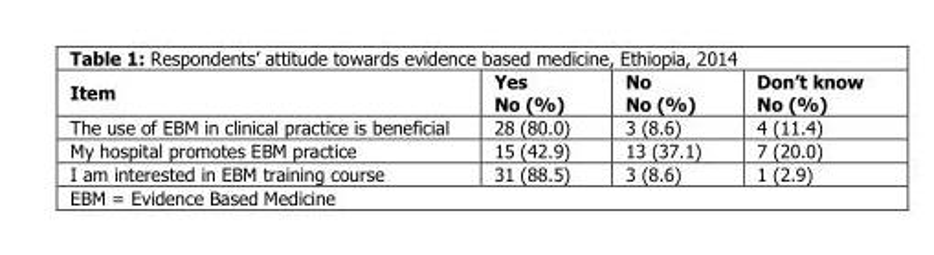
<table><thead><tr><td>Item</td><td>Yes No (%)</td><td>No No (%)</td><td>Don’t know No (%)</td></tr></thead><tbody><tr><td>The use of EBM in clinical practice is beneficial</td><td>28 (80.0)</td><td>3 (8.6)</td><td>4 (11.4)</td></tr><tr><td>My hospital promotes EBM practice</td><td>15 (42.9)</td><td>13 (37.1)</td><td>7 (20.0)</td></tr><tr><td>I am interested in EBM training course</td><td>31 (88.5)</td><td>3 (8.6)</td><td>1 (2.9)</td></tr></tbody></table>